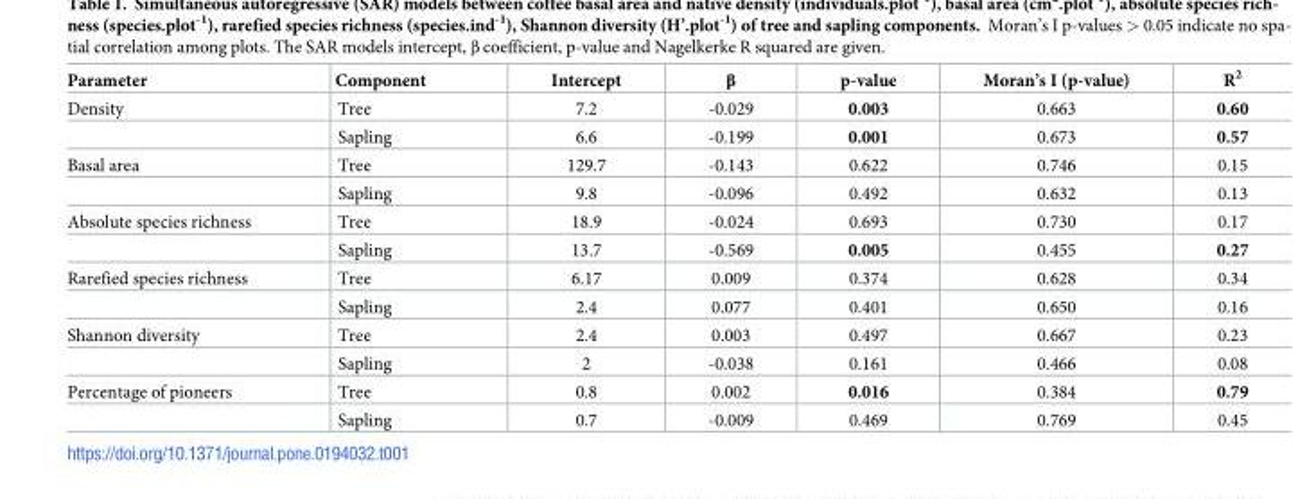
<table><thead><tr><td>Parameter</td><td>Component</td><td>Intercept</td><td>β</td><td>p-value</td><td>Moran’s I (p-value)</td><td>R<sup>2</sup></td></tr></thead><tbody><tr><td rowspan="2">Density</td><td>Tree</td><td>7.2</td><td>-0.029</td><td>0.003</td><td>0.663</td><td>0.60</td></tr><tr><td>Sapling</td><td>6.6</td><td>-0.199</td><td>0.001</td><td>0.673</td><td>0.57</td></tr><tr><td rowspan="2">Basal area</td><td>Tree</td><td>129.7</td><td>-0.143</td><td>0.622</td><td>0.746</td><td>0.15</td></tr><tr><td>Sapling</td><td>9.8</td><td>-0.096</td><td>0.492</td><td>0.632</td><td>0.13</td></tr><tr><td rowspan="2">Absolute species richness</td><td>Tree</td><td>18.9</td><td>-0.024</td><td>0.693</td><td>0.730</td><td>0.17</td></tr><tr><td>Sapling</td><td>13.7</td><td>-0.569</td><td>0.005</td><td>0.455</td><td>0.27</td></tr><tr><td rowspan="2">Rarefied species richness</td><td>Tree</td><td>6.17</td><td>0.009</td><td>0.374</td><td>0.628</td><td>0.34</td></tr><tr><td>Sapling</td><td>2.4</td><td>0.077</td><td>0.401</td><td>0.650</td><td>0.16</td></tr><tr><td rowspan="2">Shannon diversity</td><td>Tree</td><td>2.4</td><td>0.003</td><td>0.497</td><td>0.667</td><td>0.23</td></tr><tr><td>Sapling</td><td>2</td><td>-0.038</td><td>0.161</td><td>0.466</td><td>0.08</td></tr><tr><td rowspan="2">Percentage of pioneers</td><td>Tree</td><td>0.8</td><td>0.002</td><td>0.016</td><td>0.384</td><td>0.79</td></tr><tr><td>Sapling</td><td>0.7</td><td>-0.009</td><td>0.469</td><td>0.769</td><td>0.45</td></tr></tbody></table>